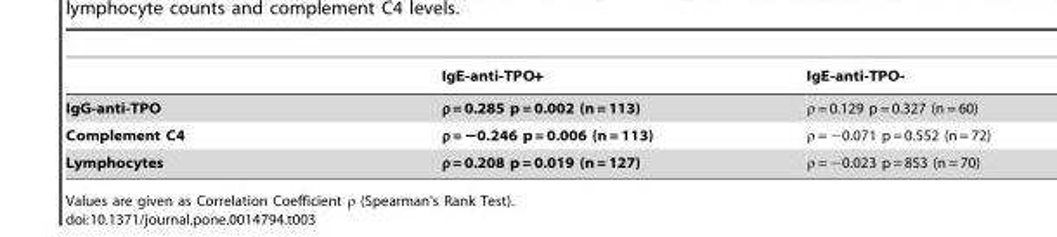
<table><thead><tr><td></td><td>IgE-anti-TPO+</td><td>IgE-anti-TPO-</td></tr></thead><tbody><tr><td>IgG-anti-TPO</td><td>ρ = 0.285 p = 0.002 (n = 113)</td><td>ρ = 0.129 p = 0.327 (n = 60)</td></tr><tr><td>Complement C4</td><td>ρ = −0.246 p = 0.006 (n = 113)</td><td>ρ = −0.071 p = 0.552 (n = 72)</td></tr><tr><td>Lymphocytes</td><td>ρ = 0.208 p = 0.019 (n = 127)</td><td>ρ = −0.023 p = 853 (n = 70)</td></tr></tbody></table>